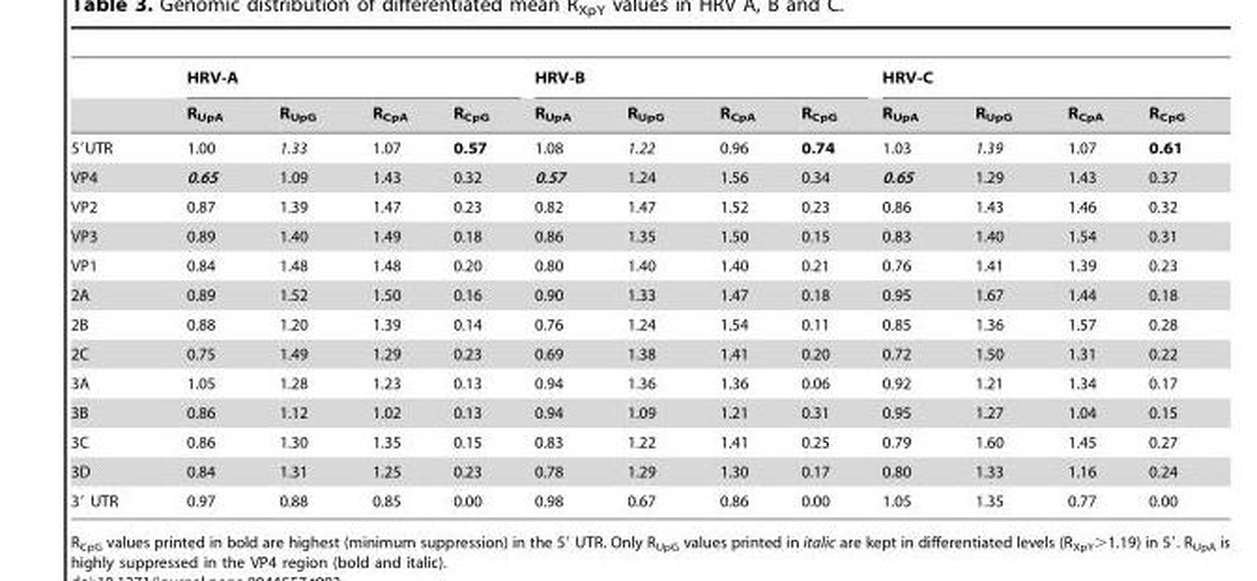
<table><thead><tr><td rowspan="2"></td><td colspan="4">HRV-A</td><td colspan="4">HRV-B</td><td colspan="4">HRV-C</td></tr><tr><td>R<sub>UpA</sub></td><td>R<sub>UpG</sub></td><td>R<sub>CpA</sub></td><td>R<sub>CpG</sub></td><td>R<sub>UpA</sub></td><td>R<sub>UpG</sub></td><td>R<sub>CpA</sub></td><td>R<sub>CpG</sub></td><td>R<sub>UpA</sub></td><td>R<sub>UpG</sub></td><td>R<sub>CpA</sub></td><td>R<sub>CpG</sub></td></tr></thead><tbody><tr><td>5′UTR</td><td>1.00</td><td>1.33</td><td>1.07</td><td>0.57</td><td>1.08</td><td>1.22</td><td>0.96</td><td>0.74</td><td>1.03</td><td>1.39</td><td>1.07</td><td>0.61</td></tr><tr><td>VP4</td><td>0.65</td><td>1.09</td><td>1.43</td><td>0.32</td><td>0.57</td><td>1.24</td><td>1.56</td><td>0.34</td><td>0.65</td><td>1.29</td><td>1.43</td><td>0.37</td></tr><tr><td>VP2</td><td>0.87</td><td>1.39</td><td>1.47</td><td>0.23</td><td>0.82</td><td>1.47</td><td>1.52</td><td>0.23</td><td>0.86</td><td>1.43</td><td>1.46</td><td>0.32</td></tr><tr><td>VP3</td><td>0.89</td><td>1.40</td><td>1.49</td><td>0.18</td><td>0.86</td><td>1.35</td><td>1.50</td><td>0.15</td><td>0.83</td><td>1.40</td><td>1.54</td><td>0.31</td></tr><tr><td>VP1</td><td>0.84</td><td>1.48</td><td>1.48</td><td>0.20</td><td>0.80</td><td>1.40</td><td>1.40</td><td>0.21</td><td>0.76</td><td>1.41</td><td>1.39</td><td>0.23</td></tr><tr><td>2A</td><td>0.89</td><td>1.52</td><td>1.50</td><td>0.16</td><td>0.90</td><td>1.33</td><td>1.47</td><td>0.18</td><td>0.95</td><td>1.67</td><td>1.44</td><td>0.18</td></tr><tr><td>2B</td><td>0.88</td><td>1.20</td><td>1.39</td><td>0.14</td><td>0.76</td><td>1.24</td><td>1.54</td><td>0.11</td><td>0.85</td><td>1.36</td><td>1.57</td><td>0.28</td></tr><tr><td>2C</td><td>0.75</td><td>1.49</td><td>1.29</td><td>0.23</td><td>0.69</td><td>1.38</td><td>1.41</td><td>0.20</td><td>0.72</td><td>1.50</td><td>1.31</td><td>0.22</td></tr><tr><td>3A</td><td>1.05</td><td>1.28</td><td>1.23</td><td>0.13</td><td>0.94</td><td>1.36</td><td>1.36</td><td>0.06</td><td>0.92</td><td>1.21</td><td>1.34</td><td>0.17</td></tr><tr><td>3B</td><td>0.86</td><td>1.12</td><td>1.02</td><td>0.13</td><td>0.94</td><td>1.09</td><td>1.21</td><td>0.31</td><td>0.95</td><td>1.27</td><td>1.04</td><td>0.15</td></tr><tr><td>3C</td><td>0.86</td><td>1.30</td><td>1.35</td><td>0.15</td><td>0.83</td><td>1.22</td><td>1.41</td><td>0.25</td><td>0.79</td><td>1.60</td><td>1.45</td><td>0.27</td></tr><tr><td>3D</td><td>0.84</td><td>1.31</td><td>1.25</td><td>0.23</td><td>0.78</td><td>1.29</td><td>1.30</td><td>0.17</td><td>0.80</td><td>1.33</td><td>1.16</td><td>0.24</td></tr><tr><td>3′ UTR</td><td>0.97</td><td>0.88</td><td>0.85</td><td>0.00</td><td>0.98</td><td>0.67</td><td>0.86</td><td>0.00</td><td>1.05</td><td>1.35</td><td>0.77</td><td>0.00</td></tr></tbody></table>